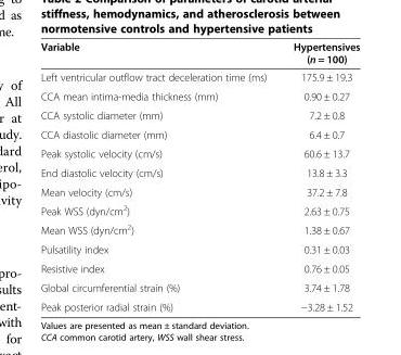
<table><thead><tr><td>Variable</td><td>Hypertensives (n = 100)</td></tr></thead><tbody><tr><td>Left ventricular outflow tract deceleration time (ms)</td><td>175.9 ± 19.3</td></tr><tr><td>CCA mean intima-media thickness (mm)</td><td>0.90 ± 0.27</td></tr><tr><td>CCA systolic diameter (mm)</td><td>7.2 ± 0.8</td></tr><tr><td>CCA diastolic diameter (mm)</td><td>6.4 ± 0.7</td></tr><tr><td>Peak systolic velocity (cm/s)</td><td>60.6 ± 13.7</td></tr><tr><td>End diastolic velocity (cm/s)</td><td>13.8 ± 3.3</td></tr><tr><td>Mean velocity (cm/s)</td><td>37.2 ± 7.8</td></tr><tr><td>Peak WSS (dyn/cm<sup>2</sup>)</td><td>2.63 ± 0.75</td></tr><tr><td>Mean WSS (dyn/cm<sup>2</sup>)</td><td>1.38 ± 0.67</td></tr><tr><td>Pulsatility index</td><td>0.31 ± 0.03</td></tr><tr><td>Resistive index</td><td>0.76 ± 0.05</td></tr><tr><td>Global circumferential strain (%)</td><td>3.74 ± 1.78</td></tr><tr><td>Peak posterior radial strain (%)</td><td>−3.28 ± 1.52</td></tr></tbody></table>